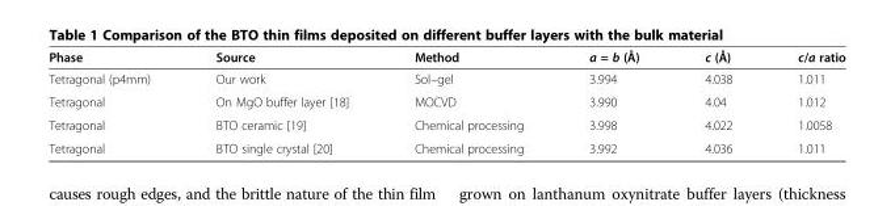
<table><thead><tr><td>Phase</td><td>Source</td><td>Method</td><td>a = b (Å)</td><td>c (Å)</td><td>c/a ratio</td></tr></thead><tbody><tr><td>Tetragonal (p4mm)</td><td>Our work</td><td>Sol–gel</td><td>3.994</td><td>4.038</td><td>1.011</td></tr><tr><td>Tetragonal</td><td>On MgO buffer layer [18]</td><td>MOCVD</td><td>3.990</td><td>4.04</td><td>1.012</td></tr><tr><td>Tetragonal</td><td>BTO ceramic [19]</td><td>Chemical processing</td><td>3.998</td><td>4.022</td><td>1.0058</td></tr><tr><td>Tetragonal</td><td>BTO single crystal [20]</td><td>Chemical processing</td><td>3.992</td><td>4.036</td><td>1.011</td></tr></tbody></table>